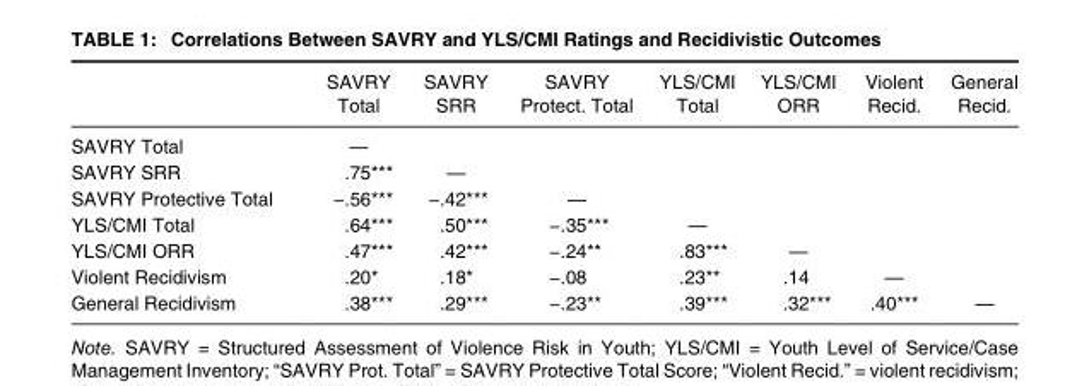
<table><thead><tr><td></td><td>SAVRY Total</td><td>SAVRY SRR</td><td>SAVRY Protect. Total</td><td>YLS/CMI Total</td><td>YLS/CMI ORR</td><td>Violent Recid.</td><td>General Recid.</td></tr></thead><tbody><tr><td>SAVRY Total</td><td>—</td><td></td><td></td><td></td><td></td><td></td><td></td></tr><tr><td>SAVRY SRR</td><td>.75***</td><td>—</td><td></td><td></td><td></td><td></td><td></td></tr><tr><td>SAVRY Protective Total</td><td>−.56***</td><td>−.42***</td><td>—</td><td></td><td></td><td></td><td></td></tr><tr><td>YLS/CMI Total</td><td>.64***</td><td>.50***</td><td>−.35***</td><td>—</td><td></td><td></td><td></td></tr><tr><td>YLS/CMI ORR</td><td>.47***</td><td>.42***</td><td>−.24**</td><td>.83***</td><td>—</td><td></td><td></td></tr><tr><td>Violent Recidivism</td><td>.20*</td><td>.18*</td><td>−.08</td><td>.23**</td><td>.14</td><td>—</td><td></td></tr><tr><td>General Recidivism</td><td>.38***</td><td>.29***</td><td>−.23**</td><td>.39***</td><td>.32***</td><td>.40***</td><td>—</td></tr></tbody></table>